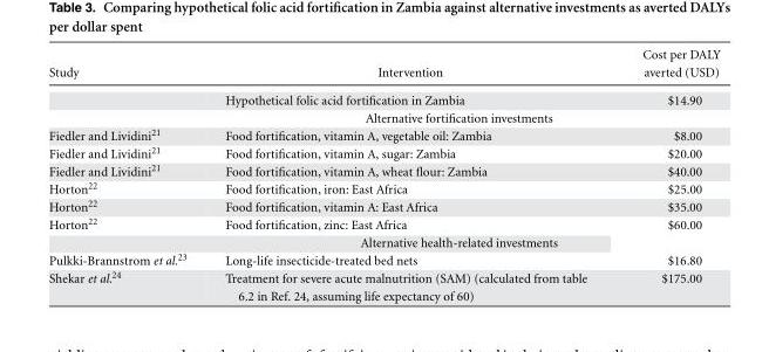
<table><thead><tr><td>Study</td><td>Intervention</td><td>Cost per DALY averted (USD)</td></tr></thead><tbody><tr><td></td><td>Hypothetical folic acid fortification in Zambia</td><td>$14.90</td></tr><tr><td colspan="3">Alternative fortification investments</td></tr><tr><td>Fiedler and Lividini<sup>21</sup></td><td>Food fortification, vitamin A, vegetable oil: Zambia</td><td>$8.00</td></tr><tr><td>Fiedler and Lividini<sup>21</sup></td><td>Food fortification, vitamin A, sugar: Zambia</td><td>$20.00</td></tr><tr><td>Fiedler and Lividini<sup>21</sup></td><td>Food fortification, vitamin A, wheat flour: Zambia</td><td>$40.00</td></tr><tr><td>Horton<sup>22</sup></td><td>Food fortification, iron: East Africa</td><td>$25.00</td></tr><tr><td>Horton<sup>22</sup></td><td>Food fortification, vitamin A: East Africa</td><td>$35.00</td></tr><tr><td>Horton<sup>22</sup></td><td>Food fortification, zinc: East Africa</td><td>$60.00</td></tr><tr><td colspan="3">Alternative health-related investments</td></tr><tr><td>Pulkki-Brannstrom et al.<sup>23</sup></td><td>Long-life insecticide-treated bed nets</td><td>$16.80</td></tr><tr><td>Shekar et al.<sup>24</sup></td><td>Treatment for severe acute malnutrition (SAM) (calculated from table 6.2 in Ref. 24, assuming life expectancy of 60)</td><td>$175.00</td></tr></tbody></table>